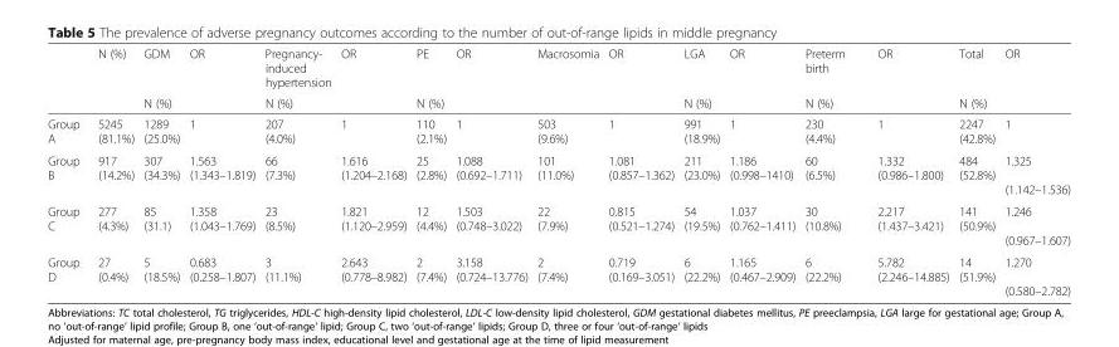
<table><thead><tr><td rowspan="2"></td><td rowspan="2">N (%)</td><td rowspan="2">GDM N (%)</td><td rowspan="2">OR</td><td rowspan="2">Pregnancy- induced hypertension N (%)</td><td rowspan="2">OR</td><td rowspan="2">PE N (%)</td><td rowspan="2">OR</td><td rowspan="2">Macrosomia</td><td rowspan="2">OR</td><td rowspan="2">LGA N (%)</td><td rowspan="2">OR</td><td rowspan="2">Preterm birth N (%)</td><td rowspan="2">OR</td><td rowspan="2">Total N (%)</td><td rowspan="2">OR</td></tr><tr></tr></thead><tbody><tr><td>Group A</td><td>5245 (81.1%)</td><td>1289 (25.0%)</td><td>1</td><td>207 (4.0%)</td><td>1</td><td>110 (2.1%)</td><td>1</td><td>503 (9.6%)</td><td>1</td><td>991 (18.9%)</td><td>1</td><td>230 (4.4%)</td><td>1</td><td>2247 (42.8%)</td><td>1</td></tr><tr><td>Group B</td><td>917 (14.2%)</td><td>307 (34.3%)</td><td>1.563 (1.343–1.819)</td><td>66 (7.3%)</td><td>1.616 (1.204–2.168)</td><td>25 (2.8%)</td><td>1.088 (0.692–1.711)</td><td>101 (11.0%)</td><td>1.081 (0.857–1.362)</td><td>211 (23.0%)</td><td>1.186 (0.998–1410)</td><td>60 (6.5%)</td><td>1.332 (0.986–1.800)</td><td>484 (52.8%)</td><td>1.325 (1.142–1.536)</td></tr><tr><td>Group C</td><td>277 (4.3%)</td><td>85 (31.1)</td><td>1.358 (1.043–1.769)</td><td>23 (8.5%)</td><td>1.821 (1.120–2.959)</td><td>12 (4.4%)</td><td>1.503 (0.748–3.022)</td><td>22 (7.9%)</td><td>0.815 (0.521–1.274)</td><td>54 (19.5%)</td><td>1.037 (0.762–1.411)</td><td>30 (10.8%)</td><td>2.217 (1.437–3.421)</td><td>141 (50.9%)</td><td>1.246 (0.967–1.607)</td></tr><tr><td>Group D</td><td>27 (0.4%)</td><td>5 (18.5%)</td><td>0.683 (0.258–1.807)</td><td>3 (11.1%)</td><td>2.643 (0.778–8.982)</td><td>2 (7.4%)</td><td>3.158 (0.724–13.776)</td><td>2 (7.4%)</td><td>0.719 (0.169–3.051)</td><td>6 (22.2%)</td><td>1.165 (0.467–2.909)</td><td>6 (22.2%)</td><td>5.782 (2.246–14.885)</td><td>14 (51.9%)</td><td>1.270 (0.580–2.782)</td></tr></tbody></table>